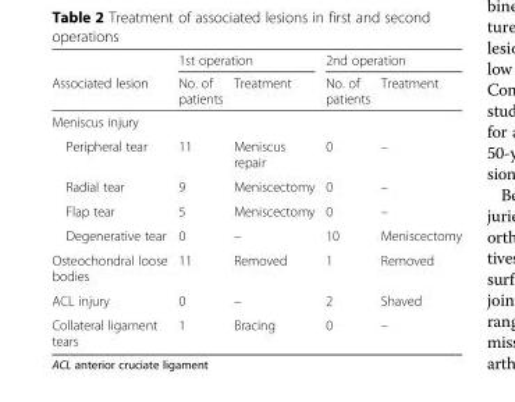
<table><thead><tr><td rowspan="2">Associated lesion</td><td colspan="2">1st operation</td><td colspan="2">2nd operation</td></tr><tr><td>No. of patients</td><td>Treatment</td><td>No. of patients</td><td>Treatment</td></tr></thead><tbody><tr><td colspan="5">Meniscus injury</td></tr><tr><td>Peripheral tear</td><td>11</td><td>Meniscus repair</td><td>0</td><td>–</td></tr><tr><td>Radial tear</td><td>9</td><td>Meniscectomy</td><td>0</td><td>–</td></tr><tr><td>Flap tear</td><td>5</td><td>Meniscectomy</td><td>0</td><td>–</td></tr><tr><td>Degenerative tear</td><td>0</td><td>–</td><td>10</td><td>Meniscectomy</td></tr><tr><td>Osteochondral loose bodies</td><td>11</td><td>Removed</td><td>1</td><td>Removed</td></tr><tr><td>ACL injury</td><td>0</td><td>–</td><td>2</td><td>Shaved</td></tr><tr><td>Collateral ligament tears</td><td>1</td><td>Bracing</td><td>0</td><td>–</td></tr></tbody></table>